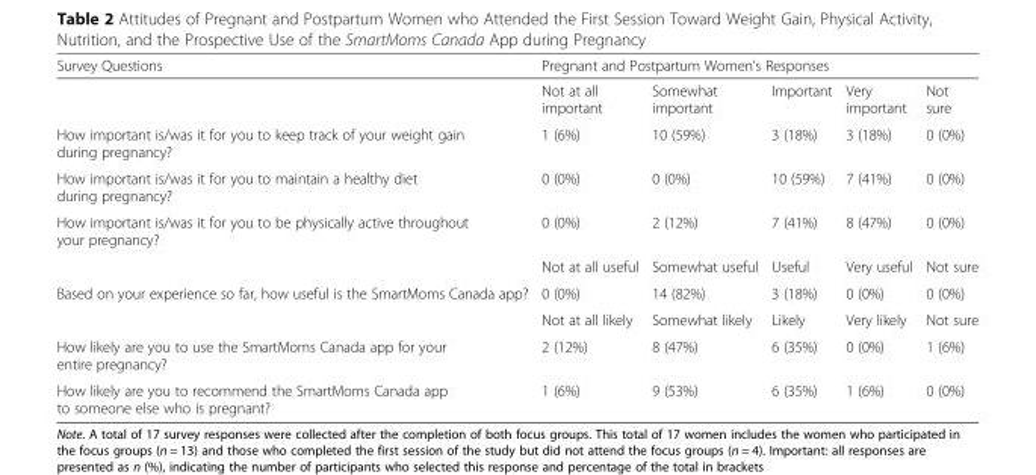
<table><thead><tr><td rowspan="2">Survey Questions</td><td colspan="5">Pregnant and Postpartum Women’s Responses</td></tr><tr><td>Not at all important</td><td>Somewhat important</td><td>Important</td><td>Very important</td><td>Not sure</td></tr></thead><tbody><tr><td>How important is/was it for you to keep track of your weight gain during pregnancy?</td><td>1 (6%)</td><td>10 (59%)</td><td>3 (18%)</td><td>3 (18%)</td><td>0 (0%)</td></tr><tr><td>How important is/was it for you to maintain a healthy diet during pregnancy?</td><td>0 (0%)</td><td>0 (0%)</td><td>10 (59%)</td><td>7 (41%)</td><td>0 (0%)</td></tr><tr><td rowspan="2">How important is/was it for you to be physically active throughout your pregnancy?</td><td>0 (0%)</td><td>2 (12%)</td><td>7 (41%)</td><td>8 (47%)</td><td>0 (0%)</td></tr><tr><td>Not at all useful</td><td>Somewhat useful</td><td>Useful</td><td>Very useful</td><td>Not sure</td></tr><tr><td rowspan="2">Based on your experience so far, how useful is the SmartMoms Canada app?</td><td>0 (0%)</td><td>14 (82%)</td><td>3 (18%)</td><td>0 (0%)</td><td>0 (0%)</td></tr><tr><td>Not at all likely</td><td>Somewhat likely</td><td>Likely</td><td>Very likely</td><td>Not sure</td></tr><tr><td>How likely are you to use the SmartMoms Canada app for your entire pregnancy?</td><td>2 (12%)</td><td>8 (47%)</td><td>6 (35%)</td><td>0 (0%)</td><td>1 (6%)</td></tr><tr><td>How likely are you to recommend the SmartMoms Canada app to someone else who is pregnant?</td><td>1 (6%)</td><td>9 (53%)</td><td>6 (35%)</td><td>1 (6%)</td><td>0 (0%)</td></tr></tbody></table>